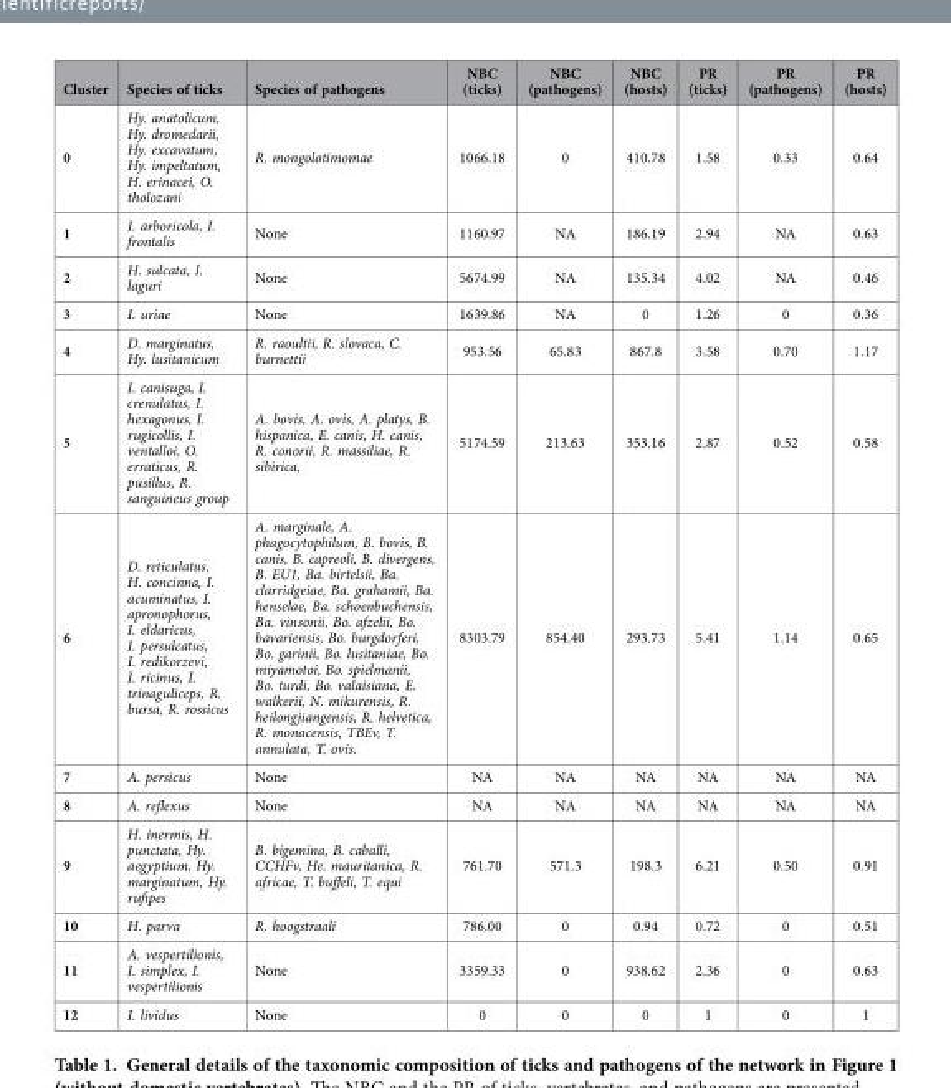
<table><thead><tr><td>Cluster</td><td>Species of ticks</td><td>Species of pathogens</td><td>NBC (ticks)</td><td>NBC (pathogens)</td><td>NBC (hosts)</td><td>PR (ticks)</td><td>PR (pathogens)</td><td>PR (hosts)</td></tr></thead><tbody><tr><td>0</td><td>Hy. anatolicum, Hy. dromedarii, Hy. excavatum, Hy. impeltatum, H. erinacei, O. tholozani</td><td>R. mongolotimomae</td><td>1066.18</td><td>0</td><td>410.78</td><td>1.58</td><td>0.33</td><td>0.64</td></tr><tr><td>1</td><td>I. arboricola, I. frontalis</td><td>None</td><td>1160.97</td><td>NA</td><td>186.19</td><td>2.94</td><td>NA</td><td>0.63</td></tr><tr><td>2</td><td>H. sulcata, I. laguri</td><td>None</td><td>5674.99</td><td>NA</td><td>135.34</td><td>4.02</td><td>NA</td><td>0.46</td></tr><tr><td>3</td><td>I. uriae</td><td>None</td><td>1639.86</td><td>NA</td><td>0</td><td>1.26</td><td>0</td><td>0.36</td></tr><tr><td>4</td><td>D. marginatus, Hy. lusitanicum</td><td>R. raoultii, R. slovaca, C. burnettii</td><td>953.56</td><td>65.83</td><td>867.8</td><td>3.58</td><td>0.70</td><td>1.17</td></tr><tr><td>5</td><td>I. canisuga, I. crenulatus, I. hexagonus, I. rugicollis, I. ventalloi, O. erraticus, R. pusillus, R. sanguineus group</td><td>A. bovis, A. ovis, A. platys, B. hispanica, E. canis, H. canis, R. conorii, R. massiliae, R. sibirica,</td><td>5174.59</td><td>213.63</td><td>353.16</td><td>2.87</td><td>0.52</td><td>0.58</td></tr><tr><td>6</td><td>D. reticulatus, H. concinna, I. acuminatus, I. apronophorus, I. eldaricus, I. persulcatus, I. redikorzevi, I. ricinus, I. trinaguliceps, R. bursa, R. rossicus</td><td>A. marginale, A. phagocytophilum, B. bovis, B. canis, B. capreoli, B. divergens, B. EU1, Ba. birtelsii, Ba. clarridgeiae, Ba. grahamii, Ba. henselae, Ba. schoenbuchensis, Ba. vinsonii, Bo. afzelii, Bo. bavariensis, Bo. burgdorferi, Bo. garinii, Bo. lusitaniae, Bo. miyamotoi, Bo. spielmanii, Bo. turdi, Bo. valaisiana, E. walkerii, N. mikurensis, R. heilongjiangensis, R. helvetica, R. monacensis, TBEv, T. annulata, T. ovis.</td><td>8303.79</td><td>854.40</td><td>293.73</td><td>5.41</td><td>1.14</td><td>0.65</td></tr><tr><td>7</td><td>A. persicus</td><td>None</td><td>NA</td><td>NA</td><td>NA</td><td>NA</td><td>NA</td><td>NA</td></tr><tr><td>8</td><td>A. reflexus</td><td>None</td><td>NA</td><td>NA</td><td>NA</td><td>NA</td><td>NA</td><td>NA</td></tr><tr><td>9</td><td>H. inermis, H. punctata, Hy. aegyptium, Hy. marginatum, Hy. rufipes</td><td>B. bigemina, B. caballi, CCHFv, He. mauritanica, R. africae, T. buffeli, T. equi</td><td>761.70</td><td>571.3</td><td>198.3</td><td>6.21</td><td>0.50</td><td>0.91</td></tr><tr><td>10</td><td>H. parva</td><td>R. hoogstraali</td><td>786.00</td><td>0</td><td>0.94</td><td>0.72</td><td>0</td><td>0.51</td></tr><tr><td>11</td><td>A. vespertilionis, I. simplex, I. vespertilionis</td><td>None</td><td>3359.33</td><td>0</td><td>938.62</td><td>2.36</td><td>0</td><td>0.63</td></tr><tr><td>12</td><td>I. lividus</td><td>None</td><td>0</td><td>0</td><td>0</td><td>1</td><td>0</td><td>1</td></tr></tbody></table>